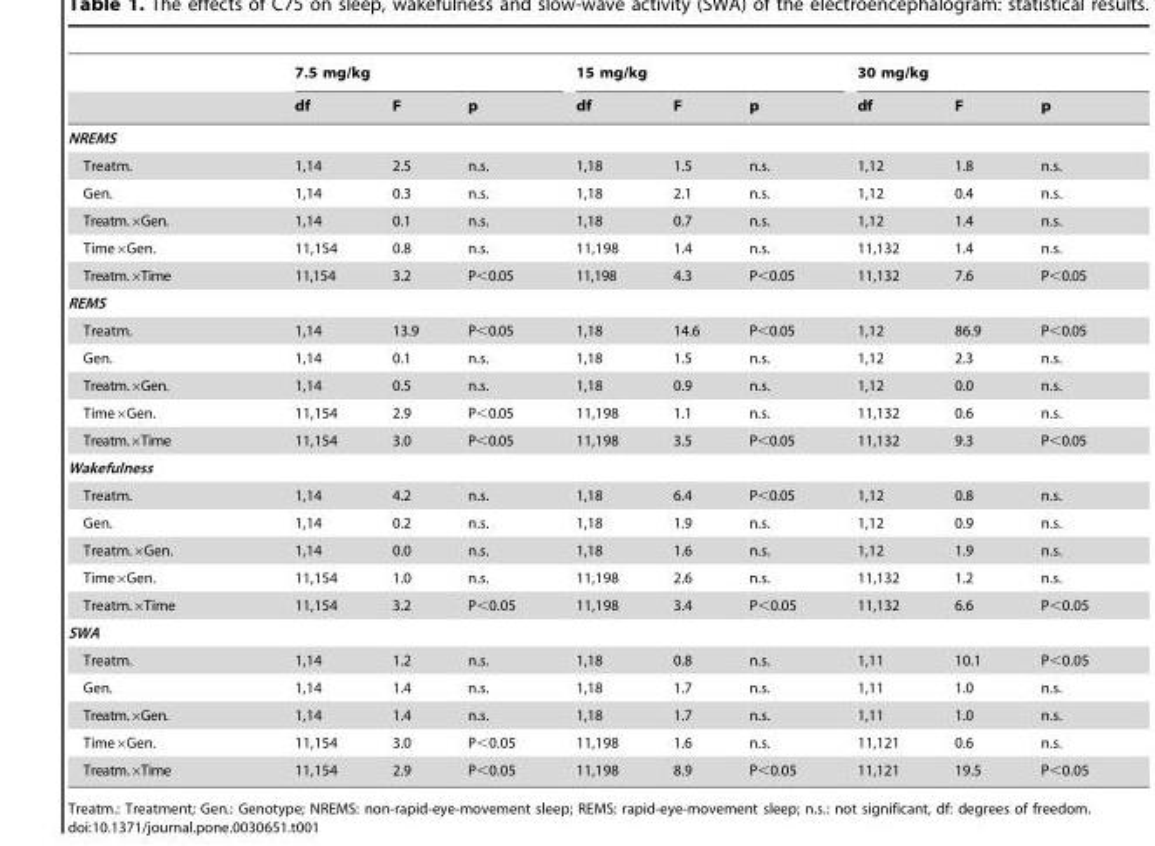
<table><thead><tr><td rowspan="2"></td><td colspan="3">7.5 mg/kg</td><td colspan="3">15 mg/kg</td><td colspan="3">30 mg/kg</td></tr><tr><td>df</td><td>F</td><td>p</td><td>df</td><td>F</td><td>p</td><td>df</td><td>F</td><td>p</td></tr></thead><tbody><tr><td colspan="10">NREMS</td></tr><tr><td>Treatm.</td><td>1,14</td><td>2.5</td><td>n.s.</td><td>1,18</td><td>1.5</td><td>n.s.</td><td>1,12</td><td>1.8</td><td>n.s.</td></tr><tr><td>Gen.</td><td>1,14</td><td>0.3</td><td>n.s.</td><td>1,18</td><td>2.1</td><td>n.s.</td><td>1,12</td><td>0.4</td><td>n.s.</td></tr><tr><td>Treatm.×Gen.</td><td>1,14</td><td>0.1</td><td>n.s.</td><td>1,18</td><td>0.7</td><td>n.s.</td><td>1,12</td><td>1.4</td><td>n.s.</td></tr><tr><td>Time×Gen.</td><td>11,154</td><td>0.8</td><td>n.s.</td><td>11,198</td><td>1.4</td><td>n.s.</td><td>11,132</td><td>1.4</td><td>n.s.</td></tr><tr><td>Treatm.×Time</td><td>11,154</td><td>3.2</td><td>P&lt;0.05</td><td>11,198</td><td>4.3</td><td>P&lt;0.05</td><td>11,132</td><td>7.6</td><td>P&lt;0.05</td></tr><tr><td colspan="10">REMS</td></tr><tr><td>Treatm.</td><td>1,14</td><td>13.9</td><td>P&lt;0.05</td><td>1,18</td><td>14.6</td><td>P&lt;0.05</td><td>1,12</td><td>86.9</td><td>P&lt;0.05</td></tr><tr><td>Gen.</td><td>1,14</td><td>0.1</td><td>n.s.</td><td>1,18</td><td>1.5</td><td>n.s.</td><td>1,12</td><td>2.3</td><td>n.s.</td></tr><tr><td>Treatm.×Gen.</td><td>1,14</td><td>0.5</td><td>n.s.</td><td>1,18</td><td>0.9</td><td>n.s.</td><td>1,12</td><td>0.0</td><td>n.s.</td></tr><tr><td>Time×Gen.</td><td>11,154</td><td>2.9</td><td>P&lt;0.05</td><td>11,198</td><td>1.1</td><td>n.s.</td><td>11,132</td><td>0.6</td><td>n.s.</td></tr><tr><td>Treatm.×Time</td><td>11,154</td><td>3.0</td><td>P&lt;0.05</td><td>11,198</td><td>3.5</td><td>P&lt;0.05</td><td>11,132</td><td>9.3</td><td>P&lt;0.05</td></tr><tr><td colspan="10">Wakefulness</td></tr><tr><td>Treatm.</td><td>1,14</td><td>4.2</td><td>n.s.</td><td>1,18</td><td>6.4</td><td>P&lt;0.05</td><td>1,12</td><td>0.8</td><td>n.s.</td></tr><tr><td>Gen.</td><td>1,14</td><td>0.2</td><td>n.s.</td><td>1,18</td><td>1.9</td><td>n.s.</td><td>1,12</td><td>0.9</td><td>n.s.</td></tr><tr><td>Treatm.×Gen.</td><td>1,14</td><td>0.0</td><td>n.s.</td><td>1,18</td><td>1.6</td><td>n.s.</td><td>1,12</td><td>1.9</td><td>n.s.</td></tr><tr><td>Time×Gen.</td><td>11,154</td><td>1.0</td><td>n.s.</td><td>11,198</td><td>2.6</td><td>n.s.</td><td>11,132</td><td>1.2</td><td>n.s.</td></tr><tr><td>Treatm.×Time</td><td>11,154</td><td>3.2</td><td>P&lt;0.05</td><td>11,198</td><td>3.4</td><td>P&lt;0.05</td><td>11,132</td><td>6.6</td><td>P&lt;0.05</td></tr><tr><td colspan="10">SWA</td></tr><tr><td>Treatm.</td><td>1,14</td><td>1.2</td><td>n.s.</td><td>1,18</td><td>0.8</td><td>n.s.</td><td>1,11</td><td>10.1</td><td>P&lt;0.05</td></tr><tr><td>Gen.</td><td>1,14</td><td>1.4</td><td>n.s.</td><td>1,18</td><td>1.7</td><td>n.s.</td><td>1,11</td><td>1.0</td><td>n.s.</td></tr><tr><td>Treatm.×Gen.</td><td>1,14</td><td>1.4</td><td>n.s.</td><td>1,18</td><td>1.7</td><td>n.s.</td><td>1,11</td><td>1.0</td><td>n.s.</td></tr><tr><td>Time×Gen.</td><td>11,154</td><td>3.0</td><td>P&lt;0.05</td><td>11,198</td><td>1.6</td><td>n.s.</td><td>11,121</td><td>0.6</td><td>n.s.</td></tr><tr><td>Treatm.×Time</td><td>11,154</td><td>2.9</td><td>P&lt;0.05</td><td>11,198</td><td>8.9</td><td>P&lt;0.05</td><td>11,121</td><td>19.5</td><td>P&lt;0.05</td></tr></tbody></table>